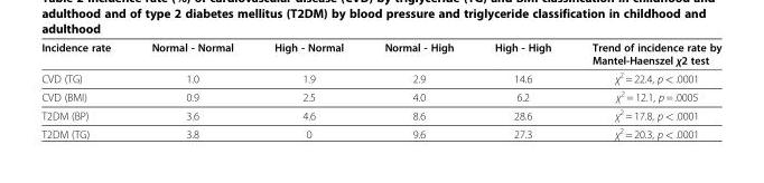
<table><thead><tr><td>Incidence rate</td><td>Normal - Normal</td><td>High - Normal</td><td>Normal - High</td><td>High - High</td><td>Trend of incidence rate by Mantel-Haenszel χ2 test</td></tr></thead><tbody><tr><td>CVD (TG)</td><td>1.0</td><td>1.9</td><td>2.9</td><td>14.6</td><td>χ<sup>2</sup> = 22.4, p &lt; .0001</td></tr><tr><td>CVD (BMI)</td><td>0.9</td><td>2.5</td><td>4.0</td><td>6.2</td><td>χ<sup>2</sup> = 12.1, p = .0005</td></tr><tr><td>T2DM (BP)</td><td>3.6</td><td>4.6</td><td>8.6</td><td>28.6</td><td>χ<sup>2</sup> = 17.8, p &lt; .0001</td></tr><tr><td>T2DM (TG)</td><td>3.8</td><td>0</td><td>9.6</td><td>27.3</td><td>χ<sup>2</sup> = 20.3, p &lt; .0001</td></tr></tbody></table>